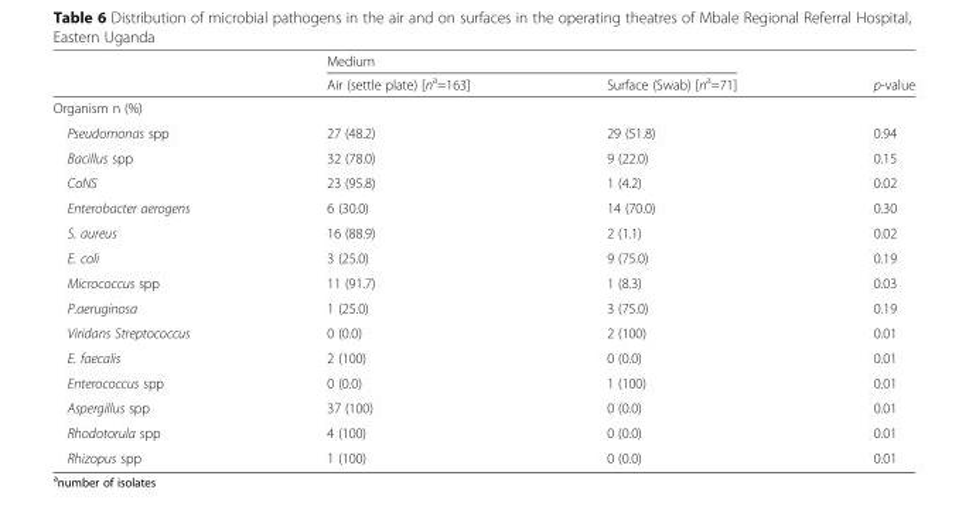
<table><thead><tr><td rowspan="2"></td><td colspan="2">Medium</td><td rowspan="2">p-value</td></tr><tr><td>Air (settle plate) [n<sup>a</sup>=163]</td><td>Surface (Swab) [n<sup>a</sup>=71]</td></tr></thead><tbody><tr><td colspan="4">Organism n (%)</td></tr><tr><td>Pseudomonas spp</td><td>27 (48.2)</td><td>29 (51.8)</td><td>0.94</td></tr><tr><td>Bacillus spp</td><td>32 (78.0)</td><td>9 (22.0)</td><td>0.15</td></tr><tr><td>CoNS</td><td>23 (95.8)</td><td>1 (4.2)</td><td>0.02</td></tr><tr><td>Enterobacter aerogens</td><td>6 (30.0)</td><td>14 (70.0)</td><td>0.30</td></tr><tr><td>S. aureus</td><td>16 (88.9)</td><td>2 (1.1)</td><td>0.02</td></tr><tr><td>E. coli</td><td>3 (25.0)</td><td>9 (75.0)</td><td>0.19</td></tr><tr><td>Micrococcus spp</td><td>11 (91.7)</td><td>1 (8.3)</td><td>0.03</td></tr><tr><td>P.aeruginosa</td><td>1 (25.0)</td><td>3 (75.0)</td><td>0.19</td></tr><tr><td>Viridans Streptococcus</td><td>0 (0.0)</td><td>2 (100)</td><td>0.01</td></tr><tr><td>E. faecalis</td><td>2 (100)</td><td>0 (0.0)</td><td>0.01</td></tr><tr><td>Enterococcus spp</td><td>0 (0.0)</td><td>1 (100)</td><td>0.01</td></tr><tr><td>Aspergillus spp</td><td>37 (100)</td><td>0 (0.0)</td><td>0.01</td></tr><tr><td>Rhodotorula spp</td><td>4 (100)</td><td>0 (0.0)</td><td>0.01</td></tr><tr><td>Rhizopus spp</td><td>1 (100)</td><td>0 (0.0)</td><td>0.01</td></tr></tbody></table>